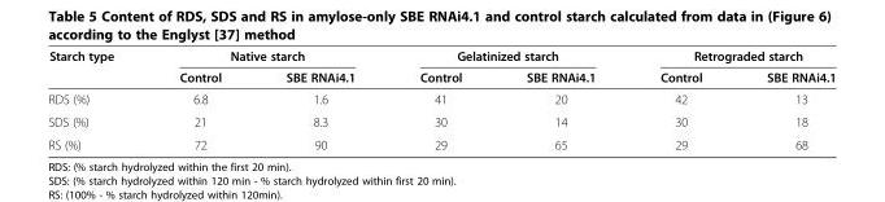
<table><thead><tr><td rowspan="2">Starch type</td><td colspan="2">Native starch</td><td colspan="2">Gelatinized starch</td><td colspan="2">Retrograded starch</td></tr><tr><td>Control</td><td>SBE RNAi4.1</td><td>Control</td><td>SBE RNAi4.1</td><td>Control</td><td>SBE RNAi4.1</td></tr></thead><tbody><tr><td>RDS (%)</td><td>6.8</td><td>1.6</td><td>41</td><td>20</td><td>42</td><td>13</td></tr><tr><td>SDS (%)</td><td>21</td><td>8.3</td><td>30</td><td>14</td><td>30</td><td>18</td></tr><tr><td>RS (%)</td><td>72</td><td>90</td><td>29</td><td>65</td><td>29</td><td>68</td></tr></tbody></table>